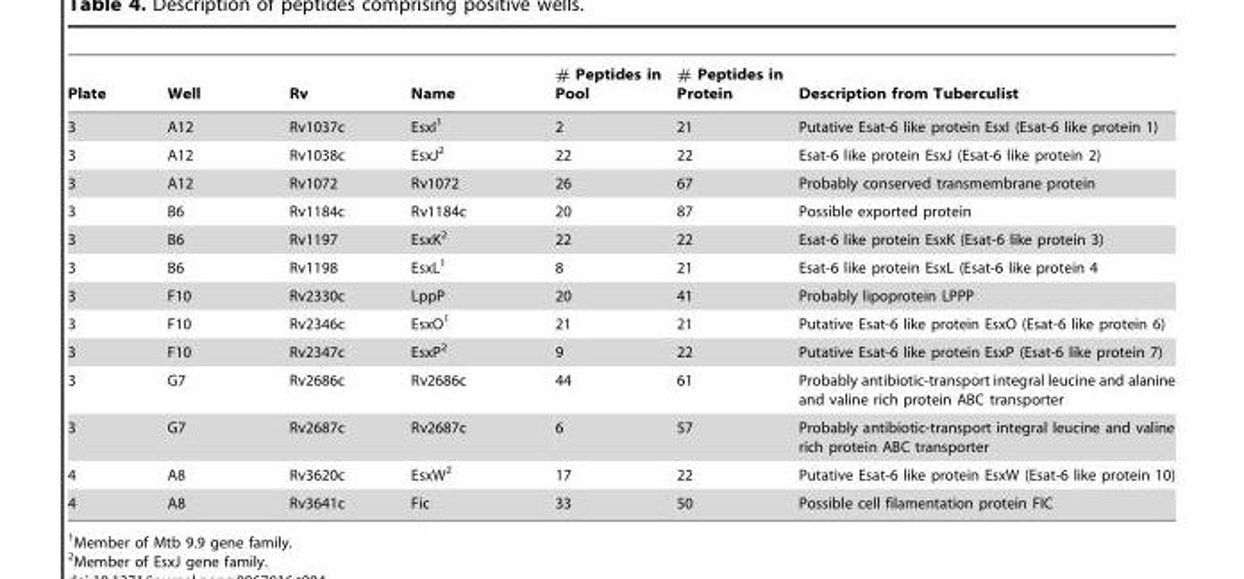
<table><thead><tr><td>Plate</td><td>Well</td><td>Rv</td><td>Name</td><td># Peptides in Pool</td><td># Peptides in Protein</td><td>Description from Tuberculist</td></tr></thead><tbody><tr><td>3</td><td>A12</td><td>Rv1037c</td><td>EsxI<sup>1</sup></td><td>2</td><td>21</td><td>Putative Esat-6 like protein EsxI (Esat-6 like protein 1)</td></tr><tr><td>3</td><td>A12</td><td>Rv1038c</td><td>EsxJ<sup>2</sup></td><td>22</td><td>22</td><td>Esat-6 like protein EsxJ (Esat-6 like protein 2)</td></tr><tr><td>3</td><td>A12</td><td>Rv1072</td><td>Rv1072</td><td>26</td><td>67</td><td>Probably conserved transmembrane protein</td></tr><tr><td>3</td><td>B6</td><td>Rv1184c</td><td>Rv1184c</td><td>20</td><td>87</td><td>Possible exported protein</td></tr><tr><td>3</td><td>B6</td><td>Rv1197</td><td>EsxK<sup>2</sup></td><td>22</td><td>22</td><td>Esat-6 like protein EsxK (Esat-6 like protein 3)</td></tr><tr><td>3</td><td>B6</td><td>Rv1198</td><td>EsxL<sup>1</sup></td><td>8</td><td>21</td><td>Esat-6 like protein EsxL (Esat-6 like protein 4</td></tr><tr><td>3</td><td>F10</td><td>Rv2330c</td><td>LppP</td><td>20</td><td>41</td><td>Probably lipoprotein LPPP</td></tr><tr><td>3</td><td>F10</td><td>Rv2346c</td><td>EsxO<sup>1</sup></td><td>21</td><td>21</td><td>Putative Esat-6 like protein EsxO (Esat-6 like protein 6)</td></tr><tr><td>3</td><td>F10</td><td>Rv2347c</td><td>EsxP<sup>2</sup></td><td>9</td><td>22</td><td>Putative Esat-6 like protein EsxP (Esat-6 like protein 7)</td></tr><tr><td>3</td><td>G7</td><td>Rv2686c</td><td>Rv2686c</td><td>44</td><td>61</td><td>Probably antibiotic-transport integral leucine and alanine and valine rich protein ABC transporter</td></tr><tr><td>3</td><td>G7</td><td>Rv2687c</td><td>Rv2687c</td><td>6</td><td>57</td><td>Probably antibiotic-transport integral leucine and valine rich protein ABC transporter</td></tr><tr><td>4</td><td>A8</td><td>Rv3620c</td><td>EsxW<sup>2</sup></td><td>17</td><td>22</td><td>Putative Esat-6 like protein EsxW (Esat-6 like protein 10)</td></tr><tr><td>4</td><td>A8</td><td>Rv3641c</td><td>Fic</td><td>33</td><td>50</td><td>Possible cell filamentation protein FIC</td></tr></tbody></table>